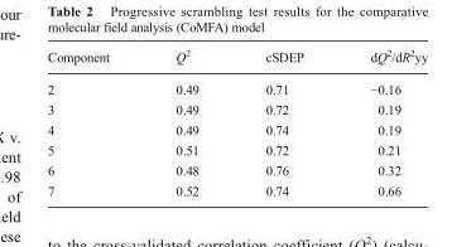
<table><thead><tr><td>Component</td><td>Q<sup>2</sup></td><td>cSDEP</td><td>dQ<sup>2</sup>/dR<sup>2</sup>yy</td></tr></thead><tbody><tr><td>2</td><td>0.49</td><td>0.71</td><td>−0.16</td></tr><tr><td>3</td><td>0.49</td><td>0.72</td><td>0.19</td></tr><tr><td>4</td><td>0.49</td><td>0.74</td><td>0.19</td></tr><tr><td>5</td><td>0.51</td><td>0.72</td><td>0.21</td></tr><tr><td>6</td><td>0.48</td><td>0.76</td><td>0.32</td></tr><tr><td>7</td><td>0.52</td><td>0.74</td><td>0.66</td></tr></tbody></table>